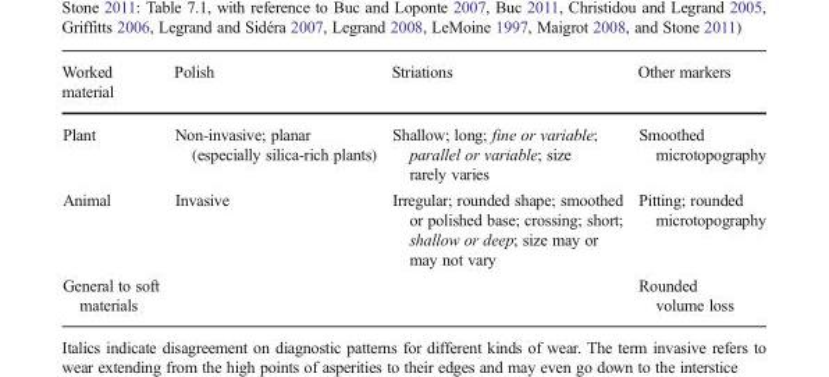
<table><thead><tr><td>Worked material</td><td>Polish</td><td>Striations</td><td>Other markers</td></tr></thead><tbody><tr><td>Plant</td><td>Non-invasive; planar (especially silica-rich plants)</td><td>Shallow; long; fine or variable; parallel or variable; size rarely varies</td><td>Smoothed microtopography</td></tr><tr><td>Animal</td><td>Invasive</td><td>Irregular; rounded shape; smoothed or polished base; crossing; short; shallow or deep; size may or may not vary</td><td>Pitting; rounded microtopography</td></tr><tr><td>General to soft materials</td><td></td><td></td><td>Rounded volume loss</td></tr></tbody></table>